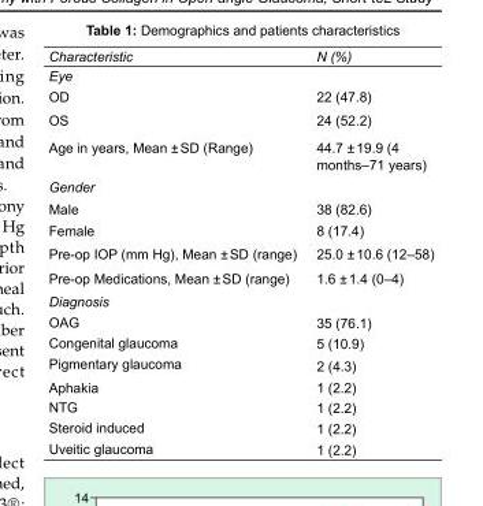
<table><tbody><tr><td>Characteristic</td><td>N (%)</td></tr><tr><td colspan="2">Eye</td></tr><tr><td>OD</td><td>22 (47.8)</td></tr><tr><td>OS</td><td>24 (52.2)</td></tr><tr><td rowspan="2">Age in years, Mean ± SD (Range)</td><td>44.7 ± 19.9 (4</td></tr><tr><td>months–71 years)</td></tr><tr><td colspan="2">Gender</td></tr><tr><td>Male</td><td>38 (82.6)</td></tr><tr><td>Female</td><td>8 (17.4)</td></tr><tr><td>Pre-op IOP (mm Hg), Mean ± SD (range)</td><td>25.0 ± 10.6 (12–58)</td></tr><tr><td>Pre-op Medications, Mean ± SD (range)</td><td>1.6 ± 1.4 (0–4)</td></tr><tr><td colspan="2">Diagnosis</td></tr><tr><td>OAG</td><td>35 (76.1)</td></tr><tr><td>Congenital glaucoma</td><td>5 (10.9)</td></tr><tr><td>Pigmentary glaucoma</td><td>2 (4.3)</td></tr><tr><td>Aphakia</td><td>1 (2.2)</td></tr><tr><td>NTG</td><td>1 (2.2)</td></tr><tr><td>Steroid induced</td><td>1 (2.2)</td></tr><tr><td>Uveitic glaucoma</td><td>1 (2.2)</td></tr></tbody></table>